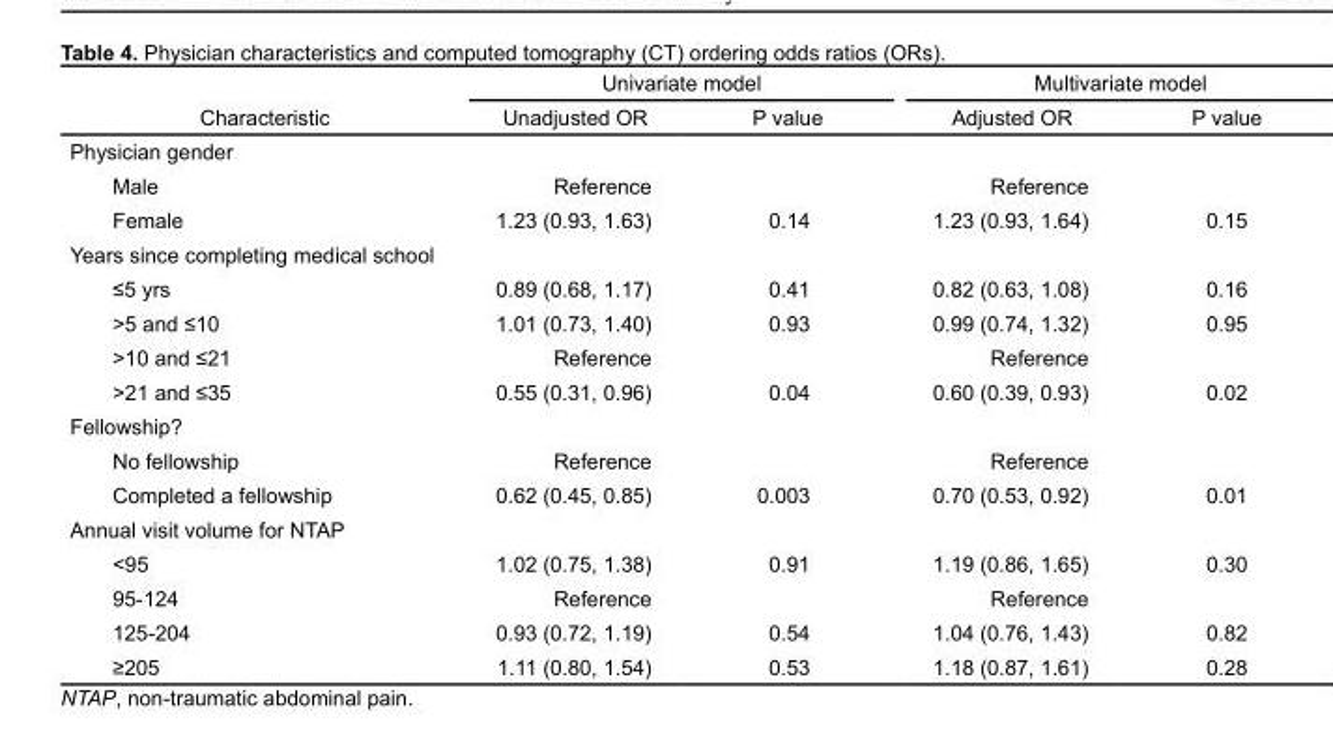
<table><thead><tr><td rowspan="2">Characteristic</td><td colspan="2">Univariate model</td><td colspan="2">Multivariate model</td></tr><tr><td>Unadjusted OR</td><td>P value</td><td>Adjusted OR</td><td>P value</td></tr></thead><tbody><tr><td colspan="5">Physician gender</td></tr><tr><td>Male</td><td>Reference</td><td></td><td>Reference</td><td></td></tr><tr><td>Female</td><td>1.23 (0.93, 1.63)</td><td>0.14</td><td>1.23 (0.93, 1.64)</td><td>0.15</td></tr><tr><td colspan="5">Years since completing medical school</td></tr><tr><td>≤5 yrs</td><td>0.89 (0.68, 1.17)</td><td>0.41</td><td>0.82 (0.63, 1.08)</td><td>0.16</td></tr><tr><td>&gt;5 and ≤10</td><td>1.01 (0.73, 1.40)</td><td>0.93</td><td>0.99 (0.74, 1.32)</td><td>0.95</td></tr><tr><td>&gt;10 and ≤21</td><td>Reference</td><td></td><td>Reference</td><td></td></tr><tr><td>&gt;21 and ≤35</td><td>0.55 (0.31, 0.96)</td><td>0.04</td><td>0.60 (0.39, 0.93)</td><td>0.02</td></tr><tr><td colspan="5">Fellowship?</td></tr><tr><td>No fellowship</td><td>Reference</td><td></td><td>Reference</td><td></td></tr><tr><td>Completed a fellowship</td><td>0.62 (0.45, 0.85)</td><td>0.003</td><td>0.70 (0.53, 0.92)</td><td>0.01</td></tr><tr><td colspan="5">Annual visit volume for NTAP</td></tr><tr><td>&lt;95</td><td>1.02 (0.75, 1.38)</td><td>0.91</td><td>1.19 (0.86, 1.65)</td><td>0.30</td></tr><tr><td>95-124</td><td>Reference</td><td></td><td>Reference</td><td></td></tr><tr><td>125-204</td><td>0.93 (0.72, 1.19)</td><td>0.54</td><td>1.04 (0.76, 1.43)</td><td>0.82</td></tr><tr><td>≥205</td><td>1.11 (0.80, 1.54)</td><td>0.53</td><td>1.18 (0.87, 1.61)</td><td>0.28</td></tr></tbody></table>